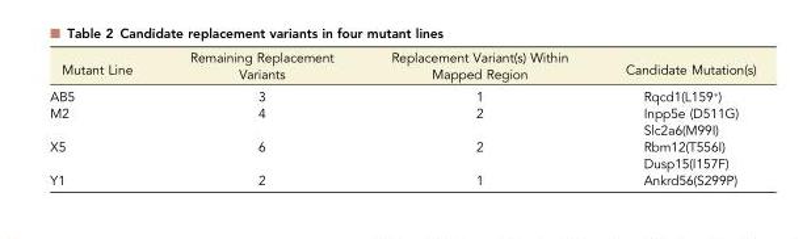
<table><thead><tr><td>Mutant Line</td><td>Remaining Replacement Variants</td><td>Replacement Variant(s) Within Mapped Region</td><td>Candidate Mutation(s)</td></tr></thead><tbody><tr><td>AB5</td><td>3</td><td>1</td><td>Rqcd1(L159*)</td></tr><tr><td rowspan="2">M2</td><td rowspan="2">4</td><td rowspan="2">2</td><td>Inpp5e (D511G)</td></tr><tr><td>Slc2a6(M99I)</td></tr><tr><td rowspan="2">X5</td><td rowspan="2">6</td><td rowspan="2">2</td><td>Rbm12(T556I)</td></tr><tr><td>Dusp15(I157F)</td></tr><tr><td>Y1</td><td>2</td><td>1</td><td>Ankrd56(S299P)</td></tr></tbody></table>